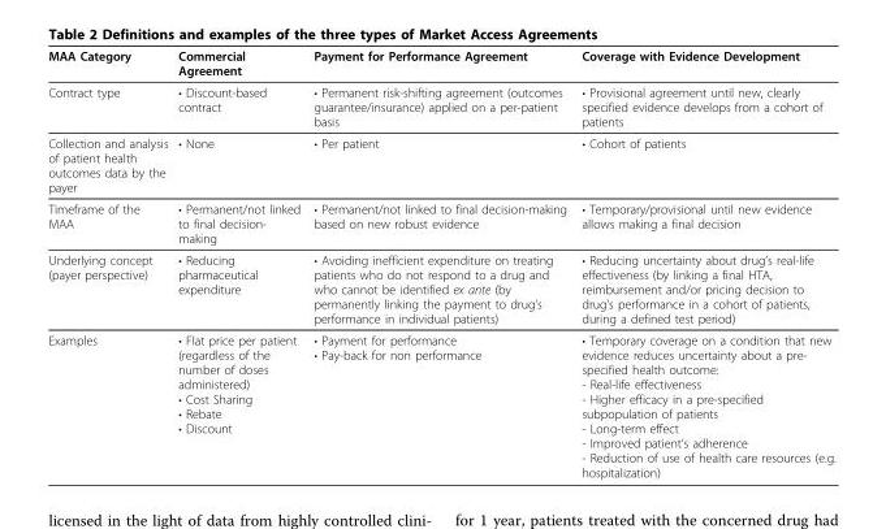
<table><thead><tr><td>MAA Category</td><td>Commercial Agreement</td><td>Payment for Performance Agreement</td><td>Coverage with Evidence Development</td></tr></thead><tbody><tr><td>Contract type</td><td>• Discount-based contract</td><td>• Permanent risk-shifting agreement (outcomes guarantee/insurance) applied on a per-patient basis</td><td>• Provisional agreement until new, clearly specified evidence develops from a cohort of patients</td></tr><tr><td>Collection and analysis of patient health outcomes data by the payer</td><td>• None</td><td>• Per patient</td><td>• Cohort of patients</td></tr><tr><td>Timeframe of the MAA</td><td>• Permanent/not linked to final decision- making</td><td>• Permanent/not linked to final decision-making based on new robust evidence</td><td>• Temporary/provisional until new evidence allows making a final decision</td></tr><tr><td>Underlying concept (payer perspective)</td><td>• Reducing pharmaceutical expenditure</td><td>• Avoiding inefficient expenditure on treating patients who do not respond to a drug and who cannot be identified ex ante (by permanently linking the payment to drug’s performance in individual patients)</td><td>• Reducing uncertainty about drug’s real-life effectiveness (by linking a final HTA, reimbursement and/or pricing decision to drug’s performance in a cohort of patients, during a defined test period)</td></tr><tr><td>Examples</td><td>• Flat price per patient (regardless of the number of doses administered) • Cost Sharing • Rebate • Discount</td><td>• Payment for performance • Pay-back for non performance</td><td>• Temporary coverage on a condition that new evidence reduces uncertainty about a pre- specified health outcome: - Real-life effectiveness - Higher efficacy in a pre-specified subpopulation of patients - Long-term effect - Improved patient’s adherence - Reduction of use of health care resources (e.g. hospitalization)</td></tr></tbody></table>